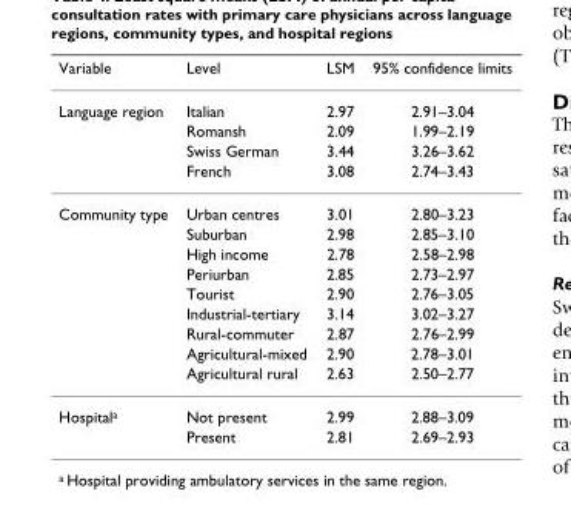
<table><thead><tr><td>Variable</td><td>Level</td><td>LSM</td><td>95% confidence limits</td></tr></thead><tbody><tr><td rowspan="4">Language region</td><td>Italian</td><td>2.97</td><td>2.91–3.04</td></tr><tr><td>Romansh</td><td>2.09</td><td>1.99–2.19</td></tr><tr><td>Swiss German</td><td>3.44</td><td>3.26–3.62</td></tr><tr><td>French</td><td>3.08</td><td>2.74–3.43</td></tr><tr><td rowspan="9">Community type</td><td>Urban centres</td><td>3.01</td><td>2.80–3.23</td></tr><tr><td>Suburban</td><td>2.98</td><td>2.85–3.10</td></tr><tr><td>High income</td><td>2.78</td><td>2.58–2.98</td></tr><tr><td>Periurban</td><td>2.85</td><td>2.73–2.97</td></tr><tr><td>Tourist</td><td>2.90</td><td>2.76–3.05</td></tr><tr><td>Industrial-tertiary</td><td>3.14</td><td>3.02–3.27</td></tr><tr><td>Rural-commuter</td><td>2.87</td><td>2.76–2.99</td></tr><tr><td>Agricultural-mixed</td><td>2.90</td><td>2.78–3.01</td></tr><tr><td>Agricultural rural</td><td>2.63</td><td>2.50–2.77</td></tr><tr><td rowspan="2">Hospital<sup>a</sup></td><td>Not present</td><td>2.99</td><td>2.88–3.09</td></tr><tr><td>Present</td><td>2.81</td><td>2.69–2.93</td></tr></tbody></table>